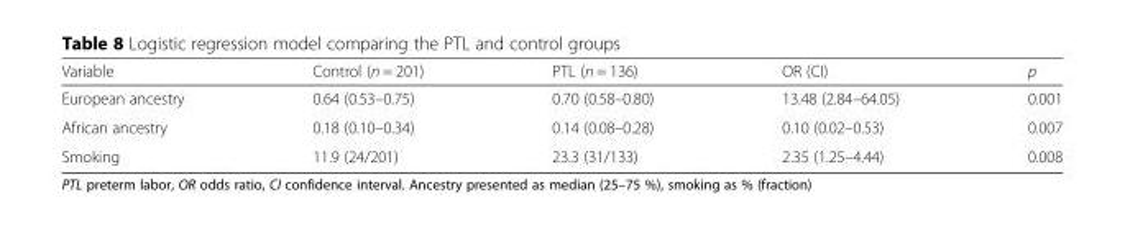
<table><thead><tr><td>Variable</td><td>Control (n = 201)</td><td>PTL (n = 136)</td><td>OR (CI)</td><td>p</td></tr></thead><tbody><tr><td>European ancestry</td><td>0.64 (0.53–0.75)</td><td>0.70 (0.58–0.80)</td><td>13.48 (2.84–64.05)</td><td>0.001</td></tr><tr><td>African ancestry</td><td>0.18 (0.10–0.34)</td><td>0.14 (0.08–0.28)</td><td>0.10 (0.02–0.53)</td><td>0.007</td></tr><tr><td>Smoking</td><td>11.9 (24/201)</td><td>23.3 (31/133)</td><td>2.35 (1.25–4.44)</td><td>0.008</td></tr></tbody></table>